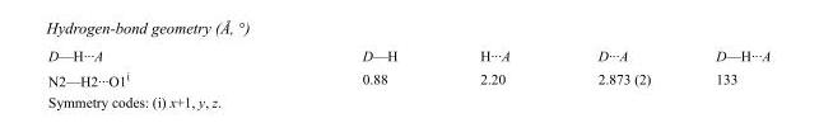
<table><tbody><tr><td>D—H···A</td><td>D—H</td><td>H···A</td><td>D···A</td><td>D—H···A</td></tr><tr><td>N2—H2···O1<sup>i</sup></td><td>0.88</td><td>2.20</td><td>2.873 (2)</td><td>133</td></tr></tbody></table>